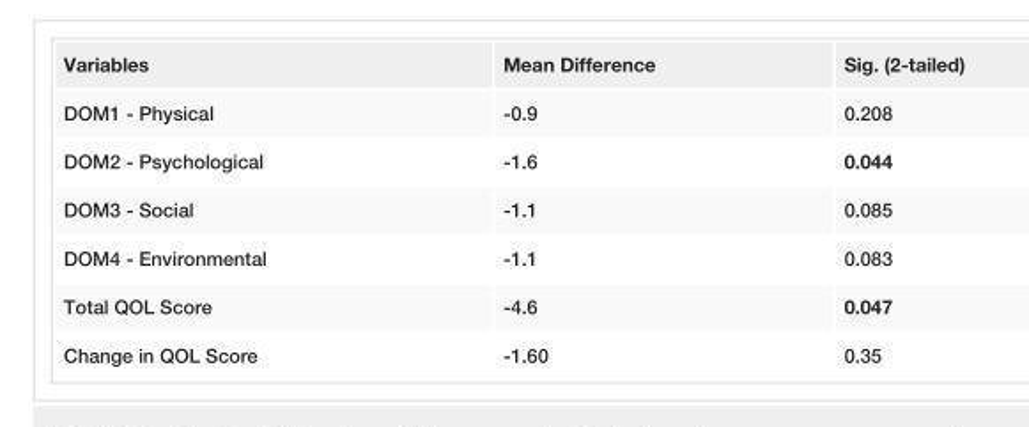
<table><tbody><tr><td>Variables</td><td>Mean Difference</td><td>Sig. (2-tailed)</td></tr><tr><td>DOM1 - Physical</td><td>-0.9</td><td>0.208</td></tr><tr><td>DOM2 - Psychological</td><td>-1.6</td><td>0.044</td></tr><tr><td>DOM3 - Social</td><td>-1.1</td><td>0.085</td></tr><tr><td>DOM4 - Environmental</td><td>-1.1</td><td>0.083</td></tr><tr><td>Total QOL Score</td><td>-4.6</td><td>0.047</td></tr><tr><td>Change in QOL Score</td><td>-1.60</td><td>0.35</td></tr></tbody></table>